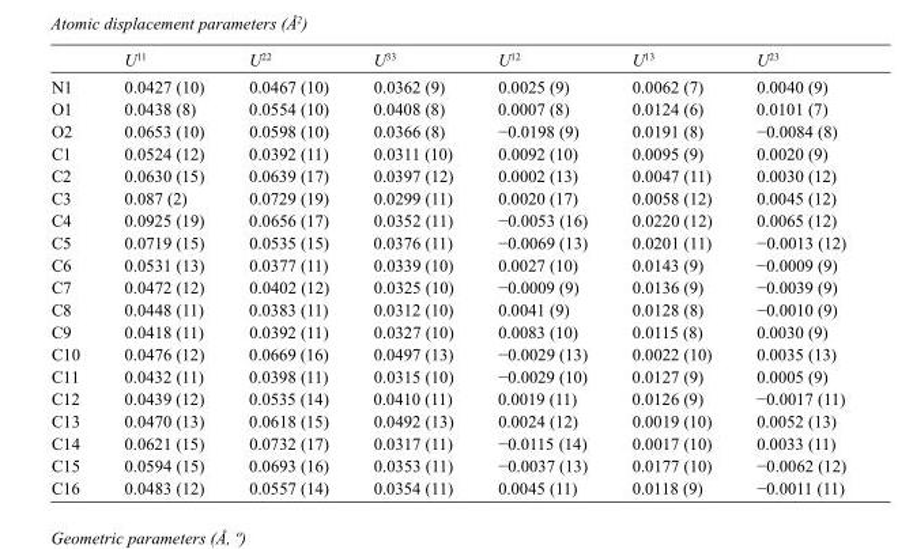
<table><thead><tr><td></td><td>U<sup>11</sup></td><td>U<sup>22</sup></td><td>U<sup>33</sup></td><td>U<sup>12</sup></td><td>U<sup>13</sup></td><td>U<sup>23</sup></td></tr></thead><tbody><tr><td>N1</td><td>0.0427 (10)</td><td>0.0467 (10)</td><td>0.0362 (9)</td><td>0.0025 (9)</td><td>0.0062 (7)</td><td>0.0040 (9)</td></tr><tr><td>O1</td><td>0.0438 (8)</td><td>0.0554 (10)</td><td>0.0408 (8)</td><td>0.0007 (8)</td><td>0.0124 (6)</td><td>0.0101 (7)</td></tr><tr><td>O2</td><td>0.0653 (10)</td><td>0.0598 (10)</td><td>0.0366 (8)</td><td>−0.0198 (9)</td><td>0.0191 (8)</td><td>−0.0084 (8)</td></tr><tr><td>C1</td><td>0.0524 (12)</td><td>0.0392 (11)</td><td>0.0311 (10)</td><td>0.0092 (10)</td><td>0.0095 (9)</td><td>0.0020 (9)</td></tr><tr><td>C2</td><td>0.0630 (15)</td><td>0.0639 (17)</td><td>0.0397 (12)</td><td>0.0002 (13)</td><td>0.0047 (11)</td><td>0.0030 (12)</td></tr><tr><td>C3</td><td>0.087 (2)</td><td>0.0729 (19)</td><td>0.0299 (11)</td><td>0.0020 (17)</td><td>0.0058 (12)</td><td>0.0045 (12)</td></tr><tr><td>C4</td><td>0.0925 (19)</td><td>0.0656 (17)</td><td>0.0352 (11)</td><td>−0.0053 (16)</td><td>0.0220 (12)</td><td>0.0065 (12)</td></tr><tr><td>C5</td><td>0.0719 (15)</td><td>0.0535 (15)</td><td>0.0376 (11)</td><td>−0.0069 (13)</td><td>0.0201 (11)</td><td>−0.0013 (12)</td></tr><tr><td>C6</td><td>0.0531 (13)</td><td>0.0377 (11)</td><td>0.0339 (10)</td><td>0.0027 (10)</td><td>0.0143 (9)</td><td>−0.0009 (9)</td></tr><tr><td>C7</td><td>0.0472 (12)</td><td>0.0402 (12)</td><td>0.0325 (10)</td><td>−0.0009 (9)</td><td>0.0136 (9)</td><td>−0.0039 (9)</td></tr><tr><td>C8</td><td>0.0448 (11)</td><td>0.0383 (11)</td><td>0.0312 (10)</td><td>0.0041 (9)</td><td>0.0128 (8)</td><td>−0.0010 (9)</td></tr><tr><td>C9</td><td>0.0418 (11)</td><td>0.0392 (11)</td><td>0.0327 (10)</td><td>0.0083 (10)</td><td>0.0115 (8)</td><td>0.0030 (9)</td></tr><tr><td>C10</td><td>0.0476 (12)</td><td>0.0669 (16)</td><td>0.0497 (13)</td><td>−0.0029 (13)</td><td>0.0022 (10)</td><td>0.0035 (13)</td></tr><tr><td>C11</td><td>0.0432 (11)</td><td>0.0398 (11)</td><td>0.0315 (10)</td><td>−0.0029 (10)</td><td>0.0127 (9)</td><td>0.0005 (9)</td></tr><tr><td>C12</td><td>0.0439 (12)</td><td>0.0535 (14)</td><td>0.0410 (11)</td><td>0.0019 (11)</td><td>0.0126 (9)</td><td>−0.0017 (11)</td></tr><tr><td>C13</td><td>0.0470 (13)</td><td>0.0618 (15)</td><td>0.0492 (13)</td><td>0.0024 (12)</td><td>0.0019 (10)</td><td>0.0052 (13)</td></tr><tr><td>C14</td><td>0.0621 (15)</td><td>0.0732 (17)</td><td>0.0317 (11)</td><td>−0.0115 (14)</td><td>0.0017 (10)</td><td>0.0033 (11)</td></tr><tr><td>C15</td><td>0.0594 (15)</td><td>0.0693 (16)</td><td>0.0353 (11)</td><td>−0.0037 (13)</td><td>0.0177 (10)</td><td>−0.0062 (12)</td></tr><tr><td>C16</td><td>0.0483 (12)</td><td>0.0557 (14)</td><td>0.0354 (11)</td><td>0.0045 (11)</td><td>0.0118 (9)</td><td>−0.0011 (11)</td></tr></tbody></table>